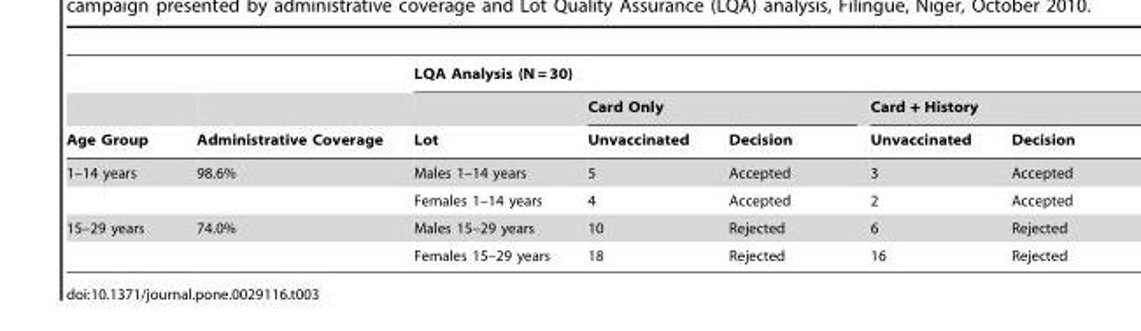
<table><thead><tr><td rowspan="3">Age Group</td><td rowspan="3">Administrative Coverage</td><td colspan="5">LQA Analysis (N = 30)</td></tr><tr><td rowspan="2">Lot</td><td colspan="2">Card Only</td><td colspan="2">Card + History</td></tr><tr><td>Unvaccinated</td><td>Decision</td><td>Unvaccinated</td><td>Decision</td></tr></thead><tbody><tr><td rowspan="2">1–14 years</td><td>98.6%</td><td>Males 1–14 years</td><td>5</td><td>Accepted</td><td>3</td><td>Accepted</td></tr><tr><td></td><td>Females 1–14 years</td><td>4</td><td>Accepted</td><td>2</td><td>Accepted</td></tr><tr><td rowspan="2">15–29 years</td><td>74.0%</td><td>Males 15–29 years</td><td>10</td><td>Rejected</td><td>6</td><td>Rejected</td></tr><tr><td></td><td>Females 15–29 years</td><td>18</td><td>Rejected</td><td>16</td><td>Rejected</td></tr></tbody></table>